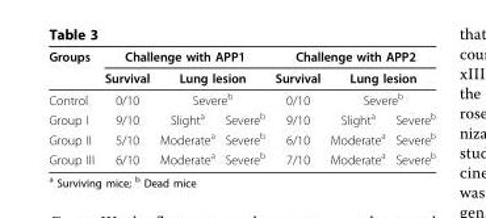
<table><thead><tr><td rowspan="4">Groups Control Group I</td><td colspan="3">Challenge with APP1</td><td colspan="3">Challenge with APP2</td></tr><tr><td rowspan="3">Survival 0/10 9/10</td><td rowspan="2" colspan="2">Lung lesion Severe<sup>b</sup></td><td rowspan="3">Survival 0/10 9/10</td><td rowspan="2" colspan="2">Lung lesion Severe<sup>b</sup></td></tr><tr></tr><tr><td>Slight<sup>a</sup></td><td>Severe<sup>b</sup></td><td>Slight<sup>a</sup></td><td>Severe<sup>b</sup></td></tr></thead><tbody><tr><td>Group II</td><td>5/10</td><td>Moderate<sup>a</sup></td><td>Severe<sup>b</sup></td><td>6/10</td><td>Moderate<sup>a</sup></td><td>Severe<sup>b</sup></td></tr><tr><td>Group III</td><td>6/10</td><td>Moderate<sup>a</sup></td><td>Severe<sup>b</sup></td><td>7/10</td><td>Moderate<sup>a</sup></td><td>Severe<sup>b</sup></td></tr></tbody></table>